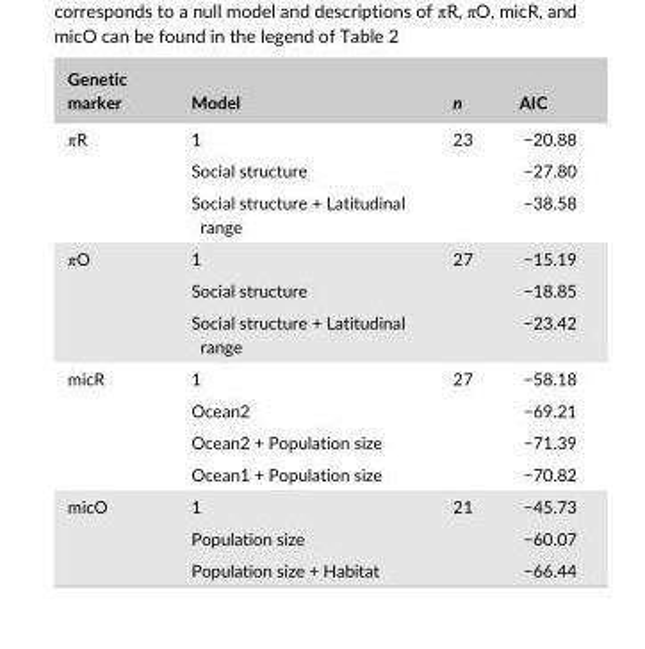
<table><thead><tr><td>Genetic marker</td><td>Model</td><td>n</td><td>AIC</td></tr></thead><tbody><tr><td rowspan="3">πR</td><td>1</td><td rowspan="3">23</td><td>−20.88</td></tr><tr><td>Social structure</td><td>−27.80</td></tr><tr><td>Social structure + Latitudinal range</td><td>−38.58</td></tr><tr><td rowspan="3">πO</td><td>1</td><td rowspan="3">27</td><td>−15.19</td></tr><tr><td>Social structure</td><td>−18.85</td></tr><tr><td>Social structure + Latitudinal range</td><td>−23.42</td></tr><tr><td rowspan="4">micR</td><td>1</td><td rowspan="4">27</td><td>−58.18</td></tr><tr><td>Ocean2</td><td>−69.21</td></tr><tr><td>Ocean2 + Population size</td><td>−71.39</td></tr><tr><td>Ocean1 + Population size</td><td>−70.82</td></tr><tr><td rowspan="3">micO</td><td>1</td><td rowspan="3">21</td><td>−45.73</td></tr><tr><td>Population size</td><td>−60.07</td></tr><tr><td>Population size + Habitat</td><td>−66.44</td></tr></tbody></table>